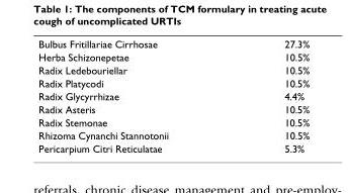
<table><tbody><tr><td>Bulbus Fritillariae Cirrhosae</td><td>27.3%</td></tr><tr><td>Herba Schizonepetae</td><td>10.5%</td></tr><tr><td>Radix Ledebouriellar</td><td>10.5%</td></tr><tr><td>Radix Platycodi</td><td>10.5%</td></tr><tr><td>Radix Glycyrrhizae</td><td>4.4%</td></tr><tr><td>Radix Asteris</td><td>10.5%</td></tr><tr><td>Radix Stemonae</td><td>10.5%</td></tr><tr><td>Rhizoma Cynanchi Stannotonii</td><td>10.5%</td></tr><tr><td>Pericarpium Citri Reticulatae</td><td>5.3%</td></tr></tbody></table>